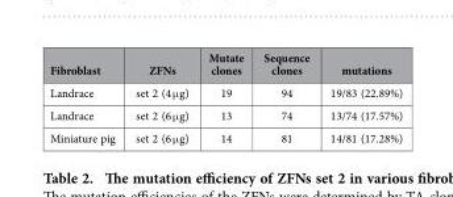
<table><thead><tr><td>Fibroblast</td><td>ZFNs</td><td>Mutate clones</td><td>Sequence clones</td><td>mutations</td></tr></thead><tbody><tr><td>Landrace</td><td>set 2 (4 μ g)</td><td>19</td><td>94</td><td>19/83 (22.89%)</td></tr><tr><td>Landrace</td><td>set 2 (6 μ g)</td><td>13</td><td>74</td><td>13/74 (17.57%)</td></tr><tr><td>Miniature pig</td><td>set 2 (6 μ g)</td><td>14</td><td>81</td><td>14/81 (17.28%)</td></tr></tbody></table>